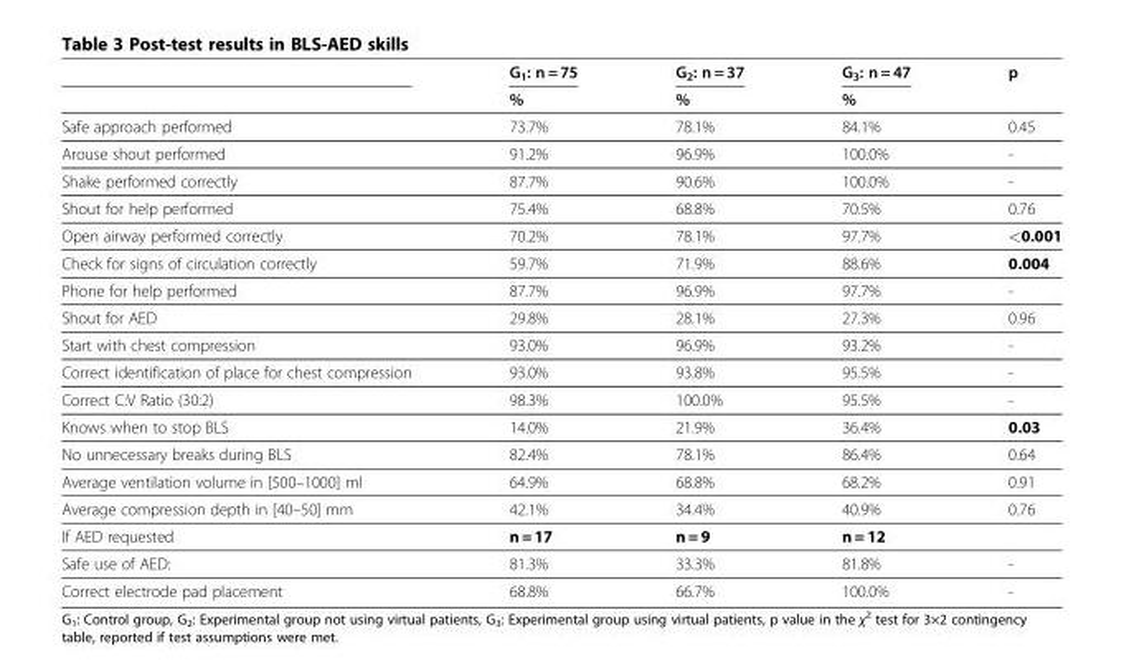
<table><thead><tr><td rowspan="2"></td><td rowspan="2">G<sub>1</sub>: n = 75 %</td><td rowspan="2">G<sub>2</sub>: n = 37 %</td><td rowspan="2">G<sub>3</sub>: n = 47 %</td><td rowspan="2">p</td></tr><tr></tr></thead><tbody><tr><td>Safe approach performed</td><td>73.7%</td><td>78.1%</td><td>84.1%</td><td>0.45</td></tr><tr><td>Arouse shout performed</td><td>91.2%</td><td>96.9%</td><td>100.0%</td><td>-</td></tr><tr><td>Shake performed correctly</td><td>87.7%</td><td>90.6%</td><td>100.0%</td><td>-</td></tr><tr><td>Shout for help performed</td><td>75.4%</td><td>68.8%</td><td>70.5%</td><td>0.76</td></tr><tr><td>Open airway performed correctly</td><td>70.2%</td><td>78.1%</td><td>97.7%</td><td>&lt;0.001</td></tr><tr><td>Check for signs of circulation correctly</td><td>59.7%</td><td>71.9%</td><td>88.6%</td><td>0.004</td></tr><tr><td>Phone for help performed</td><td>87.7%</td><td>96.9%</td><td>97.7%</td><td>-</td></tr><tr><td>Shout for AED</td><td>29.8%</td><td>28.1%</td><td>27.3%</td><td>0.96</td></tr><tr><td>Start with chest compression</td><td>93.0%</td><td>96.9%</td><td>93.2%</td><td>-</td></tr><tr><td>Correct identification of place for chest compression</td><td>93.0%</td><td>93.8%</td><td>95.5%</td><td>-</td></tr><tr><td>Correct C:V Ratio (30:2)</td><td>98.3%</td><td>100.0%</td><td>95.5%</td><td>-</td></tr><tr><td>Knows when to stop BLS</td><td>14.0%</td><td>21.9%</td><td>36.4%</td><td>0.03</td></tr><tr><td>No unnecessary breaks during BLS</td><td>82.4%</td><td>78.1%</td><td>86.4%</td><td>0.64</td></tr><tr><td>Average ventilation volume in [500–1000] ml</td><td>64.9%</td><td>68.8%</td><td>68.2%</td><td>0.91</td></tr><tr><td>Average compression depth in [40–50] mm</td><td>42.1%</td><td>34.4%</td><td>40.9%</td><td>0.76</td></tr><tr><td>If AED requested</td><td>n = 17</td><td>n = 9</td><td>n = 12</td><td></td></tr><tr><td>Safe use of AED:</td><td>81.3%</td><td>33.3%</td><td>81.8%</td><td>-</td></tr><tr><td>Correct electrode pad placement</td><td>68.8%</td><td>66.7%</td><td>100.0%</td><td>-</td></tr></tbody></table>